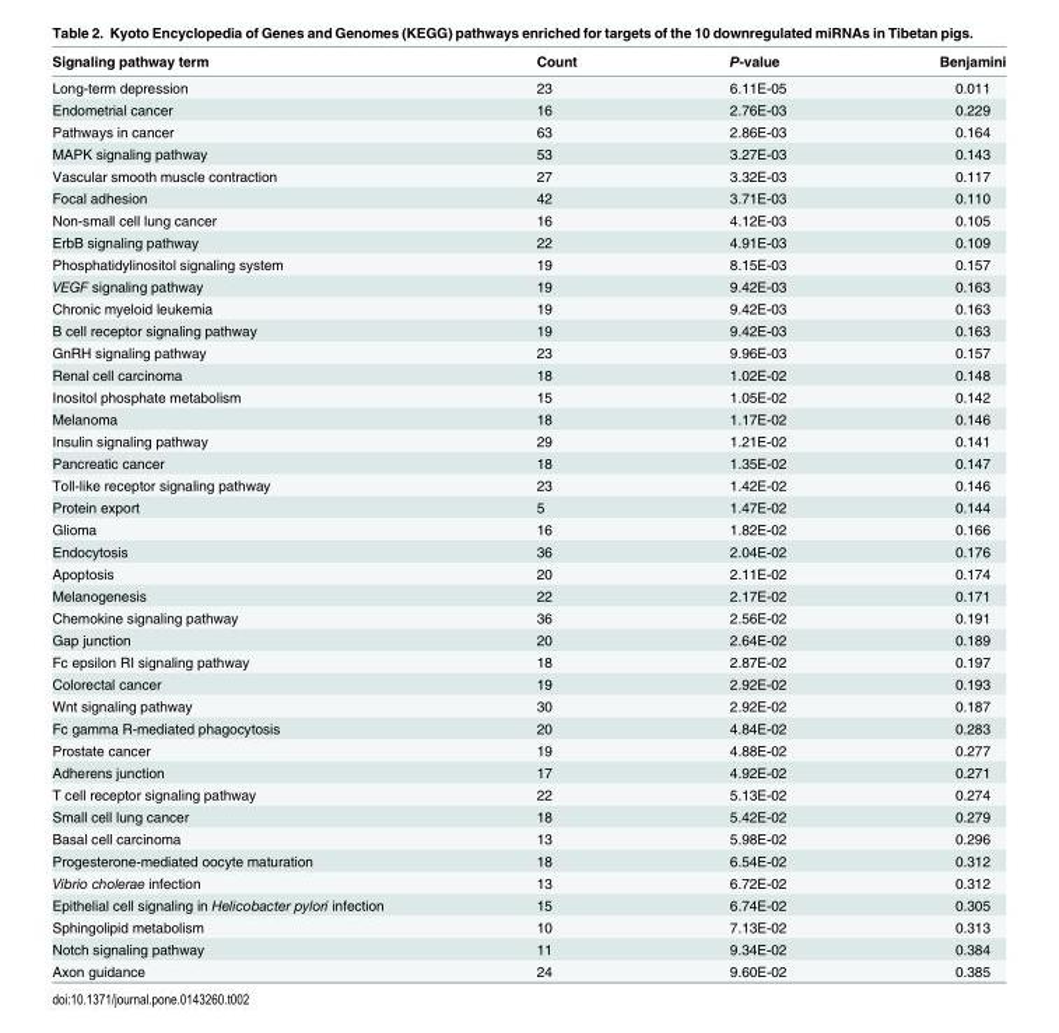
<table><thead><tr><td>Signaling pathway term</td><td>Count</td><td>P-value</td><td>Benjamini</td></tr></thead><tbody><tr><td>Long-term depression</td><td>23</td><td>6.11E-05</td><td>0.011</td></tr><tr><td>Endometrial cancer</td><td>16</td><td>2.76E-03</td><td>0.229</td></tr><tr><td>Pathways in cancer</td><td>63</td><td>2.86E-03</td><td>0.164</td></tr><tr><td>MAPK signaling pathway</td><td>53</td><td>3.27E-03</td><td>0.143</td></tr><tr><td>Vascular smooth muscle contraction</td><td>27</td><td>3.32E-03</td><td>0.117</td></tr><tr><td>Focal adhesion</td><td>42</td><td>3.71E-03</td><td>0.110</td></tr><tr><td>Non-small cell lung cancer</td><td>16</td><td>4.12E-03</td><td>0.105</td></tr><tr><td>ErbB signaling pathway</td><td>22</td><td>4.91E-03</td><td>0.109</td></tr><tr><td>Phosphatidylinositol signaling system</td><td>19</td><td>8.15E-03</td><td>0.157</td></tr><tr><td>VEGF signaling pathway</td><td>19</td><td>9.42E-03</td><td>0.163</td></tr><tr><td>Chronic myeloid leukemia</td><td>19</td><td>9.42E-03</td><td>0.163</td></tr><tr><td>B cell receptor signaling pathway</td><td>19</td><td>9.42E-03</td><td>0.163</td></tr><tr><td>GnRH signaling pathway</td><td>23</td><td>9.96E-03</td><td>0.157</td></tr><tr><td>Renal cell carcinoma</td><td>18</td><td>1.02E-02</td><td>0.148</td></tr><tr><td>Inositol phosphate metabolism</td><td>15</td><td>1.05E-02</td><td>0.142</td></tr><tr><td>Melanoma</td><td>18</td><td>1.17E-02</td><td>0.146</td></tr><tr><td>Insulin signaling pathway</td><td>29</td><td>1.21E-02</td><td>0.141</td></tr><tr><td>Pancreatic cancer</td><td>18</td><td>1.35E-02</td><td>0.147</td></tr><tr><td>Toll-like receptor signaling pathway</td><td>23</td><td>1.42E-02</td><td>0.146</td></tr><tr><td>Protein export</td><td>5</td><td>1.47E-02</td><td>0.144</td></tr><tr><td>Glioma</td><td>16</td><td>1.82E-02</td><td>0.166</td></tr><tr><td>Endocytosis</td><td>36</td><td>2.04E-02</td><td>0.176</td></tr><tr><td>Apoptosis</td><td>20</td><td>2.11E-02</td><td>0.174</td></tr><tr><td>Melanogenesis</td><td>22</td><td>2.17E-02</td><td>0.171</td></tr><tr><td>Chemokine signaling pathway</td><td>36</td><td>2.56E-02</td><td>0.191</td></tr><tr><td>Gap junction</td><td>20</td><td>2.64E-02</td><td>0.189</td></tr><tr><td>Fc epsilon RI signaling pathway</td><td>18</td><td>2.87E-02</td><td>0.197</td></tr><tr><td>Colorectal cancer</td><td>19</td><td>2.92E-02</td><td>0.193</td></tr><tr><td>Wnt signaling pathway</td><td>30</td><td>2.92E-02</td><td>0.187</td></tr><tr><td>Fc gamma R-mediated phagocytosis</td><td>20</td><td>4.84E-02</td><td>0.283</td></tr><tr><td>Prostate cancer</td><td>19</td><td>4.88E-02</td><td>0.277</td></tr><tr><td>Adherens junction</td><td>17</td><td>4.92E-02</td><td>0.271</td></tr><tr><td>T cell receptor signaling pathway</td><td>22</td><td>5.13E-02</td><td>0.274</td></tr><tr><td>Small cell lung cancer</td><td>18</td><td>5.42E-02</td><td>0.279</td></tr><tr><td>Basal cell carcinoma</td><td>13</td><td>5.98E-02</td><td>0.296</td></tr><tr><td>Progesterone-mediated oocyte maturation</td><td>18</td><td>6.54E-02</td><td>0.312</td></tr><tr><td>Vibrio cholerae infection</td><td>13</td><td>6.72E-02</td><td>0.312</td></tr><tr><td>Epithelial cell signaling in Helicobacter pylori infection</td><td>15</td><td>6.74E-02</td><td>0.305</td></tr><tr><td>Sphingolipid metabolism</td><td>10</td><td>7.13E-02</td><td>0.313</td></tr><tr><td>Notch signaling pathway</td><td>11</td><td>9.34E-02</td><td>0.384</td></tr><tr><td>Axon guidance</td><td>24</td><td>9.60E-02</td><td>0.385</td></tr></tbody></table>